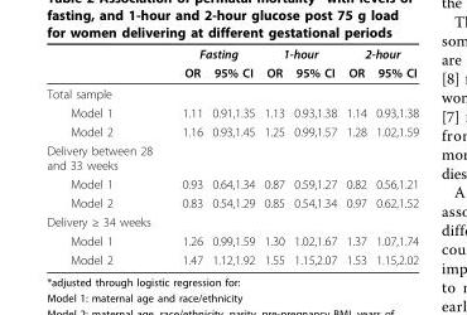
<table><thead><tr><td rowspan="2"></td><td colspan="2">Fasting</td><td colspan="2">1-hour</td><td colspan="2">2-hour</td></tr><tr><td>OR</td><td>95% CI</td><td>OR</td><td>95% CI</td><td>OR</td><td>95% CI</td></tr></thead><tbody><tr><td colspan="7">Total sample</td></tr><tr><td>Model 1</td><td>1.11</td><td>0.91,1.35</td><td>1.13</td><td>0.93,1.38</td><td>1.14</td><td>0.93,1.38</td></tr><tr><td>Model 2</td><td>1.16</td><td>0.93,1.45</td><td>1.25</td><td>0.99,1.57</td><td>1.28</td><td>1.02,1.59</td></tr><tr><td colspan="7">Delivery between 28 and 33 weeks</td></tr><tr><td>Model 1</td><td>0.93</td><td>0.64,1.34</td><td>0.87</td><td>0.59,1.27</td><td>0.82</td><td>0.56,1.21</td></tr><tr><td>Model 2</td><td>0.83</td><td>0.54,1.29</td><td>0.85</td><td>0.54,1.34</td><td>0.97</td><td>0.62,1.52</td></tr><tr><td colspan="7">Delivery ≥ 34 weeks</td></tr><tr><td>Model 1</td><td>1.26</td><td>0.99,1.59</td><td>1.30</td><td>1.02,1.67</td><td>1.37</td><td>1.07,1.74</td></tr><tr><td>Model 2</td><td>1.47</td><td>1.12,1.92</td><td>1.55</td><td>1.15,2.07</td><td>1.53</td><td>1.15,2.02</td></tr></tbody></table>